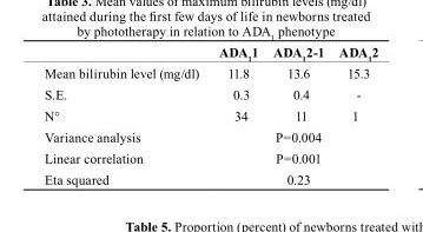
<table><thead><tr><td></td><td>ADA<sub>1</sub>1</td><td>ADA<sub>1</sub>2-1</td><td>ADA<sub>1</sub>2</td></tr></thead><tbody><tr><td>Mean bilirubin level (mg/dl)</td><td>11.8</td><td>13.6</td><td>15.3</td></tr><tr><td>S.E.</td><td>0.3</td><td>0.4</td><td>-</td></tr><tr><td>N°</td><td>34</td><td>11</td><td>1</td></tr><tr><td>Variance analysis</td><td colspan="3">P=0.004</td></tr><tr><td>Linear correlation</td><td colspan="3">P=0.001</td></tr><tr><td>Eta squared</td><td colspan="3">0.23</td></tr></tbody></table>